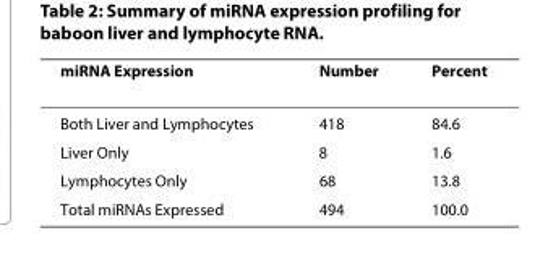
<table><thead><tr><td>miRNA Expression</td><td>Number</td><td>Percent</td></tr></thead><tbody><tr><td>Both Liver and Lymphocytes</td><td>418</td><td>84.6</td></tr><tr><td>Liver Only</td><td>8</td><td>1.6</td></tr><tr><td>Lymphocytes Only</td><td>68</td><td>13.8</td></tr><tr><td>Total miRNAs Expressed</td><td>494</td><td>100.0</td></tr></tbody></table>